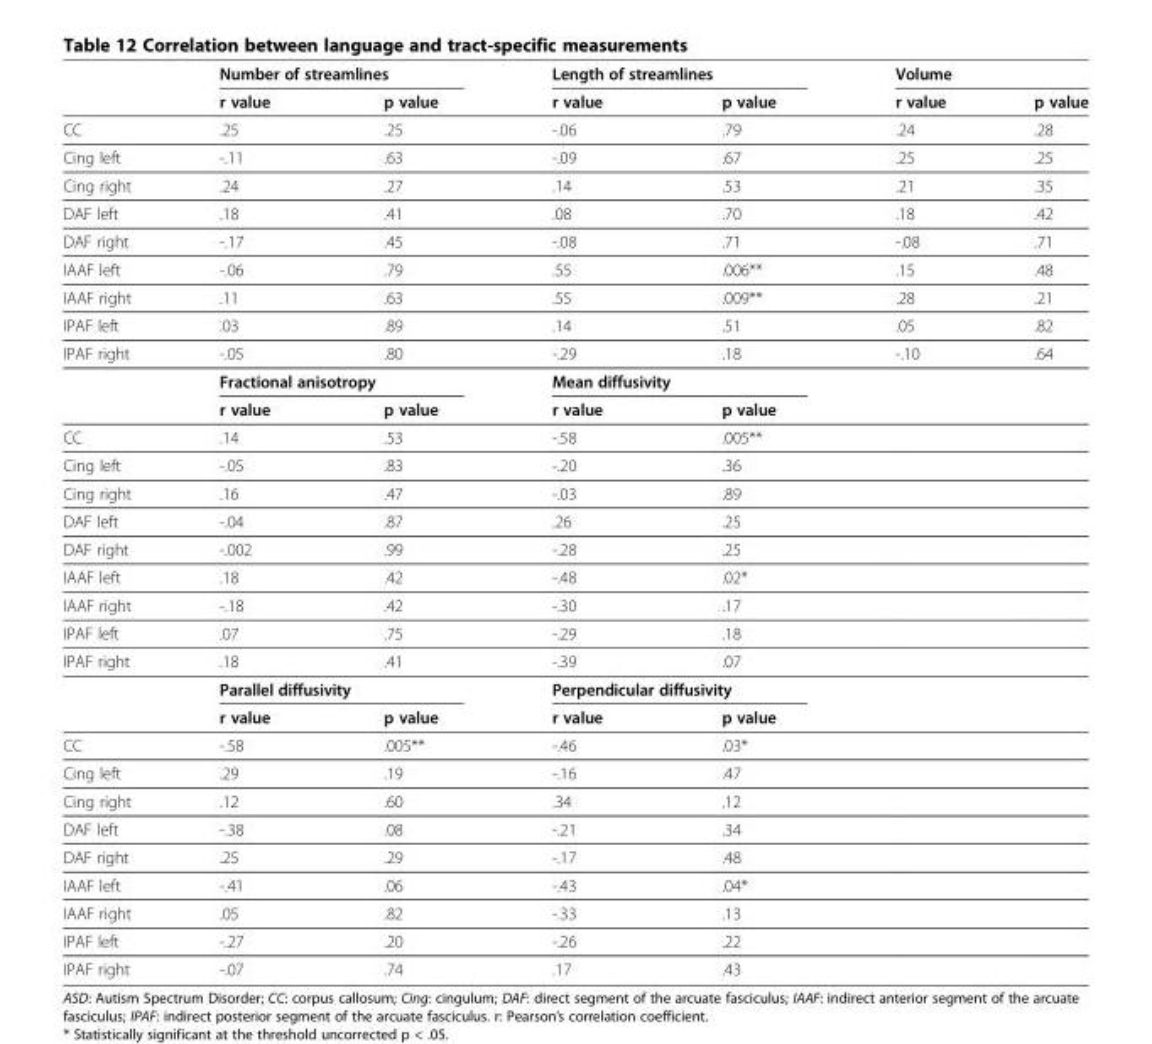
<table><thead><tr><td rowspan="2"></td><td colspan="2">Number of streamlines</td><td colspan="2">Length of streamlines</td><td colspan="2">Volume</td></tr><tr><td>r value</td><td>p value</td><td>r value</td><td>p value</td><td>r value</td><td>p value</td></tr></thead><tbody><tr><td>CC</td><td>.25</td><td>.25</td><td>-.06</td><td>.79</td><td>.24</td><td>.28</td></tr><tr><td>Cing left</td><td>-.11</td><td>.63</td><td>-.09</td><td>.67</td><td>.25</td><td>.25</td></tr><tr><td>Cing right</td><td>.24</td><td>.27</td><td>.14</td><td>.53</td><td>.21</td><td>.35</td></tr><tr><td>DAF left</td><td>.18</td><td>.41</td><td>.08</td><td>.70</td><td>.18</td><td>.42</td></tr><tr><td>DAF right</td><td>-.17</td><td>.45</td><td>-.08</td><td>.71</td><td>-.08</td><td>.71</td></tr><tr><td>IAAF left</td><td>-.06</td><td>.79</td><td>.55</td><td>.006**</td><td>.15</td><td>.48</td></tr><tr><td>IAAF right</td><td>.11</td><td>.63</td><td>.55</td><td>.009**</td><td>.28</td><td>.21</td></tr><tr><td>IPAF left</td><td>.03</td><td>.89</td><td>.14</td><td>.51</td><td>.05</td><td>.82</td></tr><tr><td rowspan="3">IPAF right</td><td>-.05</td><td>.80</td><td>-.29</td><td>.18</td><td>-.10</td><td>.64</td></tr><tr><td colspan="2">Fractional anisotropy</td><td colspan="2">Mean diffusivity</td><td></td><td></td></tr><tr><td>r value</td><td>p value</td><td>r value</td><td>p value</td><td></td><td></td></tr><tr><td>CC</td><td>.14</td><td>.53</td><td>-.58</td><td>.005**</td><td></td><td></td></tr><tr><td>Cing left</td><td>-.05</td><td>.83</td><td>-.20</td><td>.36</td><td></td><td></td></tr><tr><td>Cing right</td><td>.16</td><td>.47</td><td>-.03</td><td>.89</td><td></td><td></td></tr><tr><td>DAF left</td><td>-.04</td><td>.87</td><td>.26</td><td>.25</td><td></td><td></td></tr><tr><td>DAF right</td><td>-.002</td><td>.99</td><td>-.28</td><td>.25</td><td></td><td></td></tr><tr><td>IAAF left</td><td>.18</td><td>.42</td><td>-.48</td><td>.02*</td><td></td><td></td></tr><tr><td>IAAF right</td><td>-.18</td><td>.42</td><td>-.30</td><td>.17</td><td></td><td></td></tr><tr><td>IPAF left</td><td>.07</td><td>.75</td><td>-.29</td><td>.18</td><td></td><td></td></tr><tr><td rowspan="3">IPAF right</td><td>.18</td><td>.41</td><td>-.39</td><td>.07</td><td></td><td></td></tr><tr><td colspan="2">Parallel diffusivity</td><td colspan="2">Perpendicular diffusivity</td><td></td><td></td></tr><tr><td>r value</td><td>p value</td><td>r value</td><td>p value</td><td></td><td></td></tr><tr><td>CC</td><td>-.58</td><td>.005**</td><td>-.46</td><td>.03*</td><td></td><td></td></tr><tr><td>Cing left</td><td>.29</td><td>.19</td><td>-.16</td><td>.47</td><td></td><td></td></tr><tr><td>Cing right</td><td>.12</td><td>.60</td><td>.34</td><td>.12</td><td></td><td></td></tr><tr><td>DAF left</td><td>-.38</td><td>.08</td><td>-.21</td><td>.34</td><td></td><td></td></tr><tr><td>DAF right</td><td>.25</td><td>.29</td><td>-.17</td><td>.48</td><td></td><td></td></tr><tr><td>IAAF left</td><td>-.41</td><td>.06</td><td>-.43</td><td>.04*</td><td></td><td></td></tr><tr><td>IAAF right</td><td>.05</td><td>.82</td><td>-.33</td><td>.13</td><td></td><td></td></tr><tr><td>IPAF left</td><td>-.27</td><td>.20</td><td>-.26</td><td>.22</td><td></td><td></td></tr><tr><td>IPAF right</td><td>-.07</td><td>.74</td><td>.17</td><td>.43</td><td></td><td></td></tr></tbody></table>